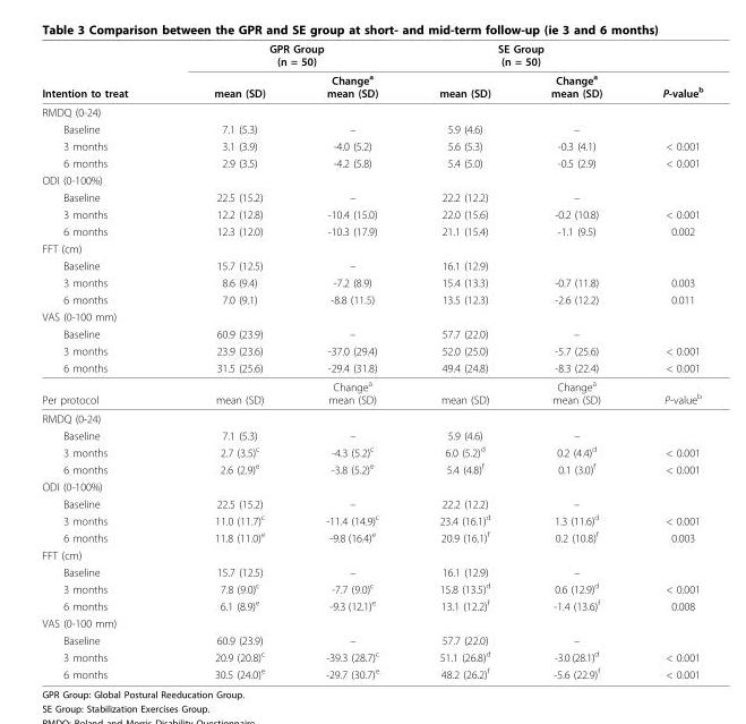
<table><thead><tr><td rowspan="2">Intention to treat</td><td colspan="2">GPR Group (n = 50)</td><td colspan="2">SE Group (n = 50)</td><td rowspan="2">P-value<sup>b</sup></td></tr><tr><td>mean (SD)</td><td>Change<sup>a</sup> mean (SD)</td><td>mean (SD)</td><td>Change<sup>a</sup> mean (SD)</td></tr></thead><tbody><tr><td colspan="6">RMDQ (0-24)</td></tr><tr><td>Baseline</td><td>7.1 (5.3)</td><td>–</td><td>5.9 (4.6)</td><td>–</td><td></td></tr><tr><td>3 months</td><td>3.1 (3.9)</td><td>-4.0 (5.2)</td><td>5.6 (5.3)</td><td>-0.3 (4.1)</td><td>&lt; 0.001</td></tr><tr><td>6 months</td><td>2.9 (3.5)</td><td>-4.2 (5.8)</td><td>5.4 (5.0)</td><td>-0.5 (2.9)</td><td>&lt; 0.001</td></tr><tr><td colspan="6">ODI (0-100%)</td></tr><tr><td>Baseline</td><td>22.5 (15.2)</td><td>–</td><td>22.2 (12.2)</td><td>–</td><td></td></tr><tr><td>3 months</td><td>12.2 (12.8)</td><td>-10.4 (15.0)</td><td>22.0 (15.6)</td><td>-0.2 (10.8)</td><td>&lt; 0.001</td></tr><tr><td>6 months</td><td>12.3 (12.0)</td><td>-10.3 (17.9)</td><td>21.1 (15.4)</td><td>-1.1 (9.5)</td><td>0.002</td></tr><tr><td colspan="6">FFT (cm)</td></tr><tr><td>Baseline</td><td>15.7 (12.5)</td><td>–</td><td>16.1 (12.9)</td><td></td><td></td></tr><tr><td>3 months</td><td>8.6 (9.4)</td><td>-7.2 (8.9)</td><td>15.4 (13.3)</td><td>-0.7 (11.8)</td><td>0.003</td></tr><tr><td>6 months</td><td>7.0 (9.1)</td><td>-8.8 (11.5)</td><td>13.5 (12.3)</td><td>-2.6 (12.2)</td><td>0.011</td></tr><tr><td colspan="6">VAS (0-100 mm)</td></tr><tr><td>Baseline</td><td>60.9 (23.9)</td><td>–</td><td>57.7 (22.0)</td><td>–</td><td></td></tr><tr><td>3 months</td><td>23.9 (23.6)</td><td>-37.0 (29.4)</td><td>52.0 (25.0)</td><td>-5.7 (25.6)</td><td>&lt; 0.001</td></tr><tr><td>6 months</td><td>31.5 (25.6)</td><td>-29.4 (31.8)</td><td>49.4 (24.8)</td><td>-8.3 (22.4)</td><td>&lt; 0.001</td></tr><tr><td>Per protocol</td><td>mean (SD)</td><td>Change<sup>a</sup> mean (SD)</td><td>mean (SD)</td><td>Change<sup>a</sup> mean (SD)</td><td>P-value<sup>b</sup></td></tr><tr><td colspan="6">RMDQ (0-24)</td></tr><tr><td>Baseline</td><td>7.1 (5.3)</td><td>–</td><td>5.9 (4.6)</td><td>–</td><td></td></tr><tr><td>3 months</td><td>2.7 (3.5)<sup>c</sup></td><td>-4.3 (5.2)<sup>c</sup></td><td>6.0 (5.2)<sup>d</sup></td><td>0.2 (4.4)<sup>d</sup></td><td>&lt; 0.001</td></tr><tr><td>6 months</td><td>2.6 (2.9)<sup>e</sup></td><td>-3.8 (5.2)<sup>e</sup></td><td>5.4 (4.8)<sup>f</sup></td><td>0.1 (3.0)<sup>f</sup></td><td>&lt; 0.001</td></tr><tr><td colspan="6">ODI (0-100%)</td></tr><tr><td>Baseline</td><td>22.5 (15.2)</td><td>–</td><td>22.2 (12.2)</td><td>–</td><td></td></tr><tr><td>3 months</td><td>11.0 (11.7)<sup>c</sup></td><td>-11.4 (14.9)<sup>c</sup></td><td>23.4 (16.1)<sup>d</sup></td><td>1.3 (11.6)<sup>d</sup></td><td>&lt; 0.001</td></tr><tr><td>6 months</td><td>11.8 (11.0)<sup>e</sup></td><td>-9.8 (16.4)<sup>e</sup></td><td>20.9 (16.1)<sup>f</sup></td><td>0.2 (10.8)<sup>f</sup></td><td>0.003</td></tr><tr><td colspan="6">FFT (cm)</td></tr><tr><td>Baseline</td><td>15.7 (12.5)</td><td>–</td><td>16.1 (12.9)</td><td>–</td><td></td></tr><tr><td>3 months</td><td>7.8 (9.0)<sup>c</sup></td><td>-7.7 (9.0)<sup>c</sup></td><td>15.8 (13.5)<sup>d</sup></td><td>0.6 (12.9)<sup>d</sup></td><td>&lt; 0.001</td></tr><tr><td>6 months</td><td>6.1 (8.9)<sup>e</sup></td><td>-9.3 (12.1)<sup>e</sup></td><td>13.1 (12.2)<sup>f</sup></td><td>-1.4 (13.6)<sup>f</sup></td><td>0.008</td></tr><tr><td colspan="6">VAS (0-100 mm)</td></tr><tr><td>Baseline</td><td>60.9 (23.9)</td><td>–</td><td>57.7 (22.0)</td><td>–</td><td></td></tr><tr><td>3 months</td><td>20.9 (20.8)<sup>c</sup></td><td>-39.3 (28.7)<sup>c</sup></td><td>51.1 (26.8)<sup>d</sup></td><td>-3.0 (28.1)<sup>d</sup></td><td>&lt; 0.001</td></tr><tr><td>6 months</td><td>30.5 (24.0)<sup>e</sup></td><td>-29.7 (30.7)<sup>e</sup></td><td>48.2 (26.2)<sup>f</sup></td><td>-5.6 (22.9)<sup>f</sup></td><td>&lt; 0.001</td></tr></tbody></table>